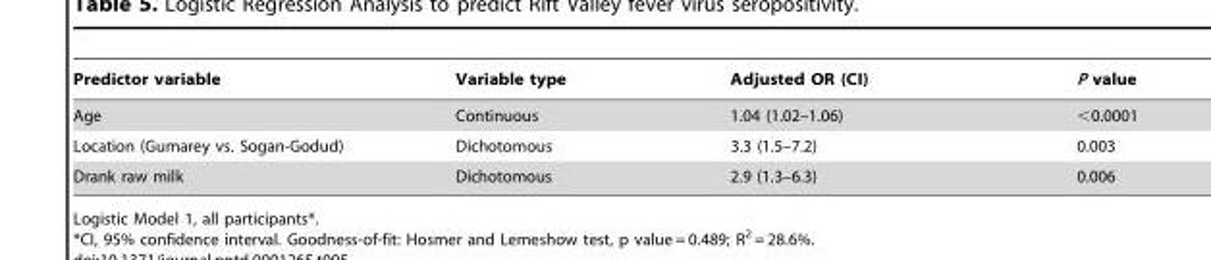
<table><thead><tr><td>Predictor variable</td><td>Variable type</td><td>Adjusted OR (CI)</td><td>P value</td></tr></thead><tbody><tr><td>Age</td><td>Continuous</td><td>1.04 (1.02–1.06)</td><td>&lt;0.0001</td></tr><tr><td>Location (Gumarey vs. Sogan-Godud)</td><td>Dichotomous</td><td>3.3 (1.5–7.2)</td><td>0.003</td></tr><tr><td>Drank raw milk</td><td>Dichotomous</td><td>2.9 (1.3–6.3)</td><td>0.006</td></tr></tbody></table>